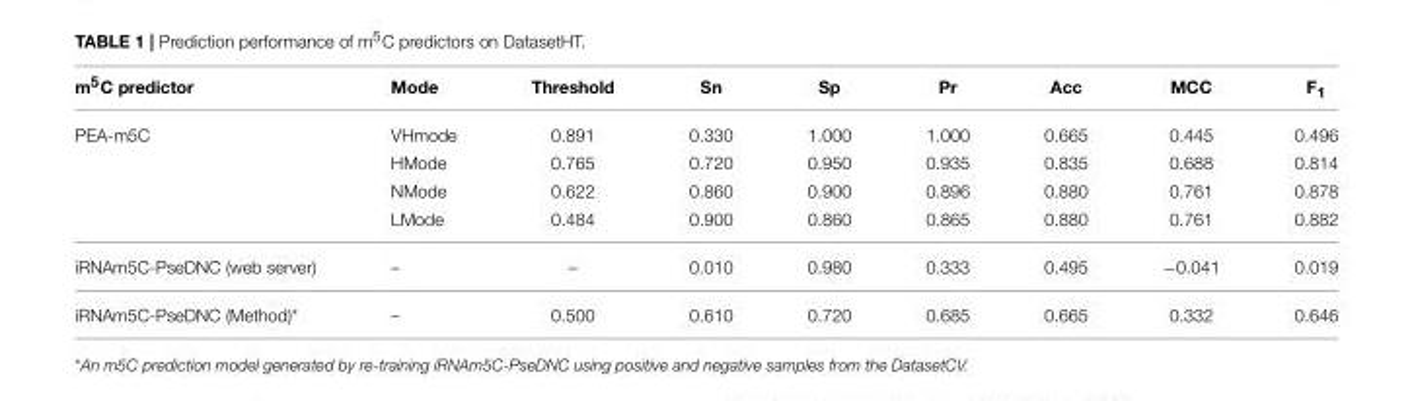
<table><thead><tr><td>m<sup>5</sup>C predictor</td><td>Mode</td><td>Threshold</td><td>Sn</td><td>Sp</td><td>Pr</td><td>Acc</td><td>MCC</td><td>F<sub>1</sub></td></tr></thead><tbody><tr><td rowspan="4">PEA-m5C</td><td>VHmode</td><td>0.891</td><td>0.330</td><td>1.000</td><td>1.000</td><td>0.665</td><td>0.445</td><td>0.496</td></tr><tr><td>HMode</td><td>0.765</td><td>0.720</td><td>0.950</td><td>0.935</td><td>0.835</td><td>0.688</td><td>0.814</td></tr><tr><td>NMode</td><td>0.622</td><td>0.860</td><td>0.900</td><td>0.896</td><td>0.880</td><td>0.761</td><td>0.878</td></tr><tr><td>LMode</td><td>0.484</td><td>0.900</td><td>0.860</td><td>0.865</td><td>0.880</td><td>0.761</td><td>0.882</td></tr><tr><td>iRNAm5C-PseDNC (web server)</td><td>–</td><td>–</td><td>0.010</td><td>0.980</td><td>0.333</td><td>0.495</td><td>−0.041</td><td>0.019</td></tr><tr><td>iRNAm5C-PseDNC (Method)*</td><td>–</td><td>0.500</td><td>0.610</td><td>0.720</td><td>0.685</td><td>0.665</td><td>0.332</td><td>0.646</td></tr></tbody></table>